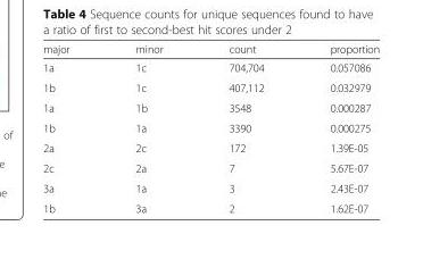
<table><thead><tr><td>major</td><td>minor</td><td>count</td><td>proportion</td></tr></thead><tbody><tr><td>1a</td><td>1c</td><td>704,704</td><td>0.057086</td></tr><tr><td>1b</td><td>1c</td><td>407,112</td><td>0.032979</td></tr><tr><td>1a</td><td>1b</td><td>3548</td><td>0.000287</td></tr><tr><td>1b</td><td>1a</td><td>3390</td><td>0.000275</td></tr><tr><td>2a</td><td>2c</td><td>172</td><td>1.39E-05</td></tr><tr><td>2c</td><td>2a</td><td>7</td><td>5.67E-07</td></tr><tr><td>3a</td><td>1a</td><td>3</td><td>2.43E-07</td></tr><tr><td>1b</td><td>3a</td><td>2</td><td>1.62E-07</td></tr></tbody></table>